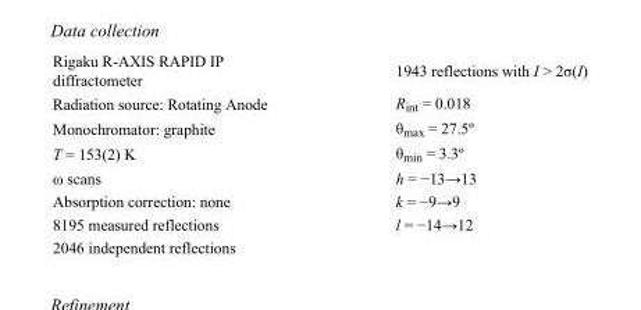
<table><tbody><tr><td>Rigaku R-AXIS RAPID IP diffractometer</td><td>1943 reflections with I &gt; 2σ(I)</td></tr><tr><td>Radiation source: Rotating Anode</td><td>R<sub>int</sub> = 0.018</td></tr><tr><td>Monochromator: graphite</td><td>θ<sub>max</sub> = 27.5º</td></tr><tr><td>T = 153(2) K</td><td>θ<sub>min</sub> = 3.3º</td></tr><tr><td>ω scans</td><td>h = −13→13</td></tr><tr><td>Absorption correction: none</td><td>k = −9→9</td></tr><tr><td>8195 measured reflections</td><td>l = −14→12</td></tr><tr><td>2046 independent reflections</td><td></td></tr></tbody></table>